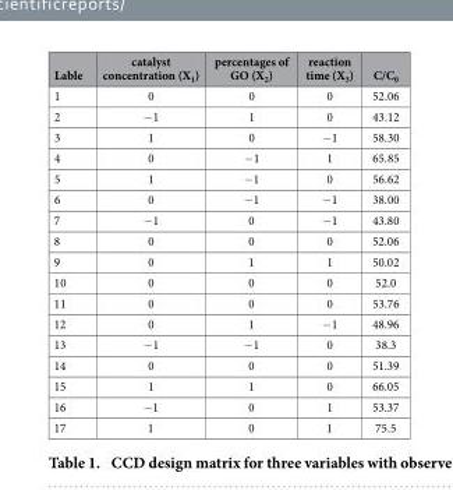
<table><thead><tr><td>Lable</td><td>catalyst concentration (X<sub>1</sub>)</td><td>percentages of GO (X<sub>2</sub>)</td><td>reaction time (X<sub>3</sub>)</td><td>C/C<sub>0</sub></td></tr></thead><tbody><tr><td>1</td><td>0</td><td>0</td><td>0</td><td>52.06</td></tr><tr><td>2</td><td>− 1</td><td>1</td><td>0</td><td>43.12</td></tr><tr><td>3</td><td>1</td><td>0</td><td>− 1</td><td>58.30</td></tr><tr><td>4</td><td>0</td><td>− 1</td><td>1</td><td>65.85</td></tr><tr><td>5</td><td>1</td><td>− 1</td><td>0</td><td>56.62</td></tr><tr><td>6</td><td>0</td><td>− 1</td><td>− 1</td><td>38.00</td></tr><tr><td>7</td><td>−1</td><td>0</td><td>− 1</td><td>43.80</td></tr><tr><td>8</td><td>0</td><td>0</td><td>0</td><td>52.06</td></tr><tr><td>9</td><td>0</td><td>1</td><td>1</td><td>50.02</td></tr><tr><td>10</td><td>0</td><td>0</td><td>0</td><td>52.0</td></tr><tr><td>11</td><td>0</td><td>0</td><td>0</td><td>53.76</td></tr><tr><td>12</td><td>0</td><td>1</td><td>− 1</td><td>48.96</td></tr><tr><td>13</td><td>−1</td><td>− 1</td><td>0</td><td>38.3</td></tr><tr><td>14</td><td>0</td><td>0</td><td>0</td><td>51.39</td></tr><tr><td>15</td><td>1</td><td>1</td><td>0</td><td>66.05</td></tr><tr><td>16</td><td>−1</td><td>0</td><td>1</td><td>53.37</td></tr><tr><td>17</td><td>1</td><td>0</td><td>1</td><td>75.5</td></tr></tbody></table>